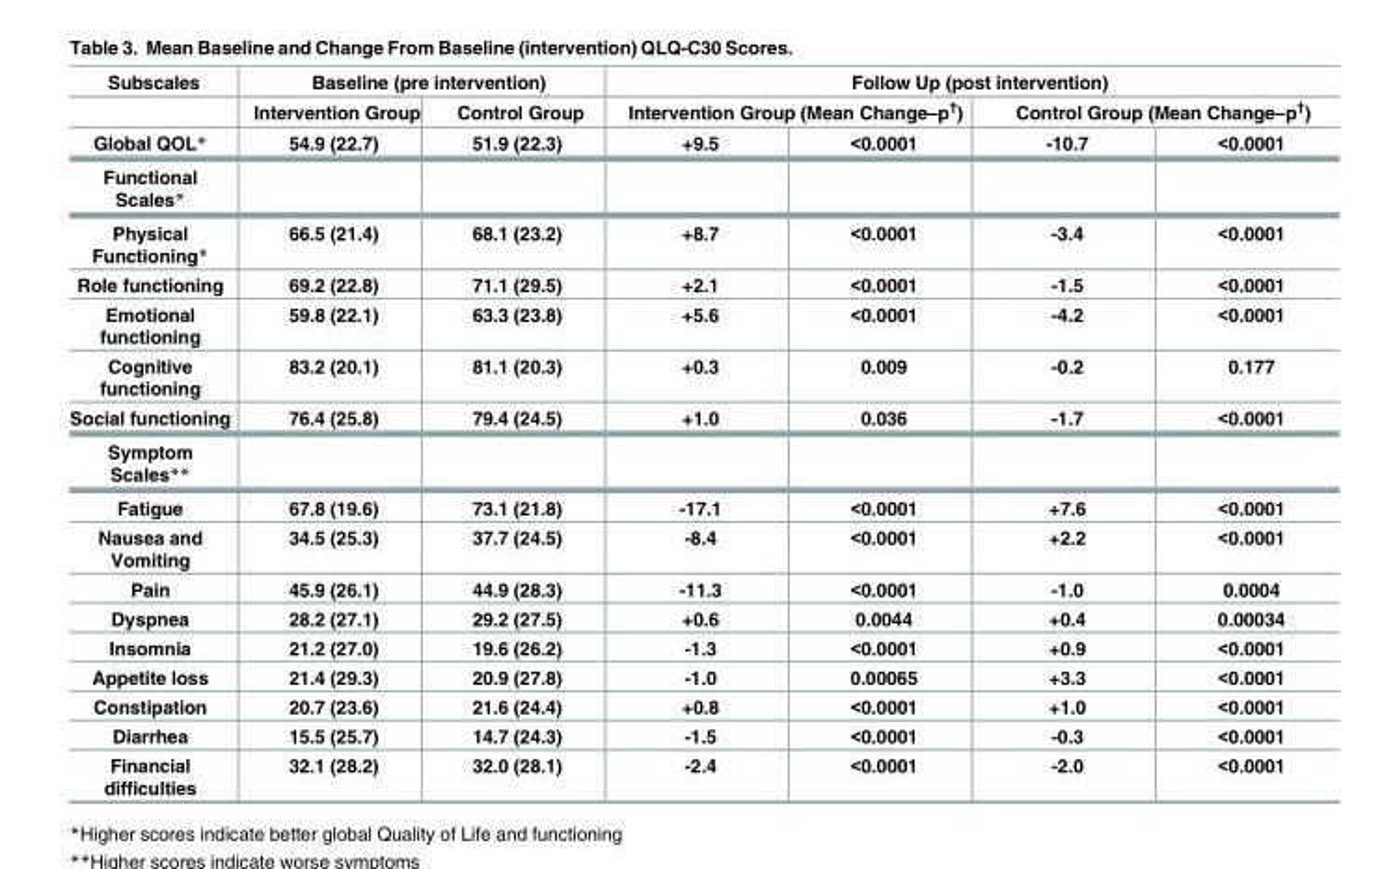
<table><thead><tr><td rowspan="3">Subscales Global QOL*</td><td colspan="2">Baseline (pre intervention)</td><td colspan="4">Follow Up (post intervention)</td></tr><tr><td rowspan="2">Intervention Group 54.9 (22.7)</td><td rowspan="2">Control Group 51.9 (22.3)</td><td colspan="2">Intervention Group (Mean Change–p<sup>†</sup>)</td><td colspan="2">Control Group (Mean Change–p<sup>†</sup>)</td></tr><tr><td>+9.5</td><td>&lt;0.0001</td><td>-10.7</td><td>&lt;0.0001</td></tr></thead><tbody><tr><td colspan="7">Functional Scales*</td></tr><tr><td>Physical Functioning*</td><td>66.5 (21.4)</td><td>68.1 (23.2)</td><td>+8.7</td><td>&lt;0.0001</td><td>-3.4</td><td>&lt;0.0001</td></tr><tr><td>Role functioning</td><td>69.2 (22.8)</td><td>71.1 (29.5)</td><td>+2.1</td><td>&lt;0.0001</td><td>-1.5</td><td>&lt;0.0001</td></tr><tr><td>Emotional functioning</td><td>59.8 (22.1)</td><td>63.3 (23.8)</td><td>+5.6</td><td>&lt;0.0001</td><td>-4.2</td><td>&lt;0.0001</td></tr><tr><td>Cognitive functioning</td><td>83.2 (20.1)</td><td>81.1 (20.3)</td><td>+0.3</td><td>0.009</td><td>-0.2</td><td>0.177</td></tr><tr><td>Social functioning</td><td>76.4 (25.8)</td><td>79.4 (24.5)</td><td>+1.0</td><td>0.036</td><td>-1.7</td><td>&lt;0.0001</td></tr><tr><td colspan="7">Symptom Scales**</td></tr><tr><td>Fatigue</td><td>67.8 (19.6)</td><td>73.1 (21.8)</td><td>-17.1</td><td>&lt;0.0001</td><td>+7.6</td><td>&lt;0.0001</td></tr><tr><td>Nausea and Vomiting</td><td>34.5 (25.3)</td><td>37.7 (24.5)</td><td>-8.4</td><td>&lt;0.0001</td><td>+2.2</td><td>&lt;0.0001</td></tr><tr><td>Pain</td><td>45.9 (26.1)</td><td>44.9 (28.3)</td><td>-11.3</td><td>&lt;0.0001</td><td>-1.0</td><td>0.0004</td></tr><tr><td>Dyspnea</td><td>28.2 (27.1)</td><td>29.2 (27.5)</td><td>+0.6</td><td>0.0044</td><td>+0.4</td><td>0.00034</td></tr><tr><td>Insomnia</td><td>21.2 (27.0)</td><td>19.6 (26.2)</td><td>-1.3</td><td>&lt;0.0001</td><td>+0.9</td><td>&lt;0.0001</td></tr><tr><td>Appetite loss</td><td>21.4 (29.3)</td><td>20.9 (27.8)</td><td>-1.0</td><td>0.00065</td><td>+3.3</td><td>&lt;0.0001</td></tr><tr><td>Constipation</td><td>20.7 (23.6)</td><td>21.6 (24.4)</td><td>+0.8</td><td>&lt;0.0001</td><td>+1.0</td><td>&lt;0.0001</td></tr><tr><td>Diarrhea</td><td>15.5 (25.7)</td><td>14.7 (24.3)</td><td>-1.5</td><td>&lt;0.0001</td><td>-0.3</td><td>&lt;0.0001</td></tr><tr><td>Financial difficulties</td><td>32.1 (28.2)</td><td>32.0 (28.1)</td><td>-2.4</td><td>&lt;0.0001</td><td>-2.0</td><td>&lt;0.0001</td></tr></tbody></table>